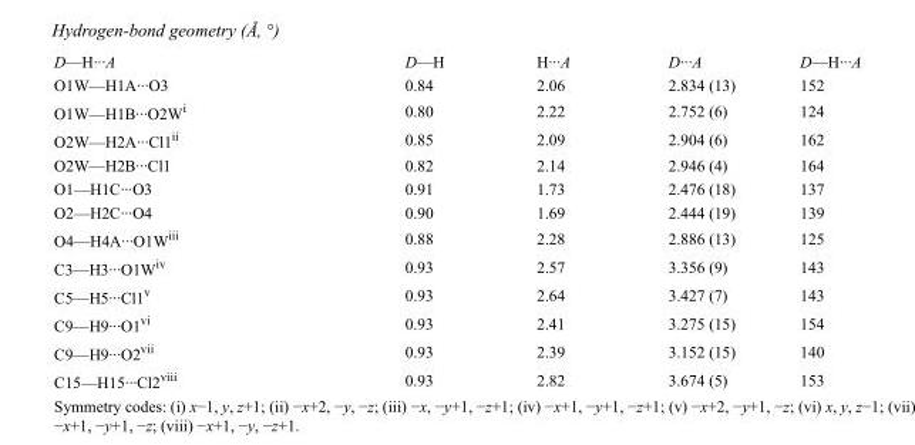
<table><tbody><tr><td>D—H···A</td><td>D—H</td><td>H···A</td><td>D···A</td><td>D—H···A</td></tr><tr><td>O1W—H1A···O3</td><td>0.84</td><td>2.06</td><td>2.834 (13)</td><td>152</td></tr><tr><td>O1W—H1B···O2W<sup>i</sup></td><td>0.80</td><td>2.22</td><td>2.752 (6)</td><td>124</td></tr><tr><td>O2W—H2A···Cl1<sup>ii</sup></td><td>0.85</td><td>2.09</td><td>2.904 (6)</td><td>162</td></tr><tr><td>O2W—H2B···Cl1</td><td>0.82</td><td>2.14</td><td>2.946 (4)</td><td>164</td></tr><tr><td>O1—H1C···O3</td><td>0.91</td><td>1.73</td><td>2.476 (18)</td><td>137</td></tr><tr><td>O2—H2C···O4</td><td>0.90</td><td>1.69</td><td>2.444 (19)</td><td>139</td></tr><tr><td>O4—H4A···O1W<sup>iii</sup></td><td>0.88</td><td>2.28</td><td>2.886 (13)</td><td>125</td></tr><tr><td>C3—H3···O1W<sup>iv</sup></td><td>0.93</td><td>2.57</td><td>3.356 (9)</td><td>143</td></tr><tr><td>C5—H5···Cl1<sup>v</sup></td><td>0.93</td><td>2.64</td><td>3.427 (7)</td><td>143</td></tr><tr><td>C9—H9···O1<sup>vi</sup></td><td>0.93</td><td>2.41</td><td>3.275 (15)</td><td>154</td></tr><tr><td>C9—H9···O2<sup>vii</sup></td><td>0.93</td><td>2.39</td><td>3.152 (15)</td><td>140</td></tr><tr><td>C15—H15···Cl2<sup>viii</sup></td><td>0.93</td><td>2.82</td><td>3.674 (5)</td><td>153</td></tr></tbody></table>